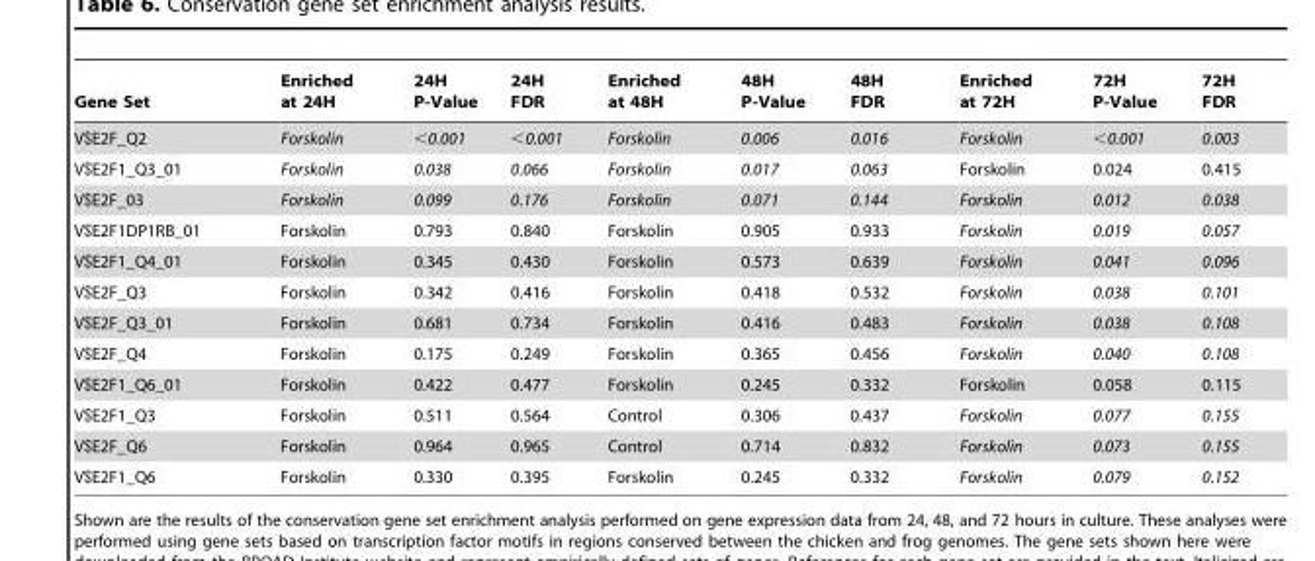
<table><thead><tr><td>Gene Set</td><td>Enriched at 24H</td><td>24H P-Value</td><td>24H FDR</td><td>Enriched at 48H</td><td>48H P-Value</td><td>48H FDR</td><td>Enriched at 72H</td><td>72H P-Value</td><td>72H FDR</td></tr></thead><tbody><tr><td>V$E2F_Q2</td><td>Forskolin</td><td>&lt;0.001</td><td>&lt;0.001</td><td>Forskolin</td><td>0.006</td><td>0.016</td><td>Forskolin</td><td>&lt;0.001</td><td>0.003</td></tr><tr><td>V$E2F1_Q3_01</td><td>Forskolin</td><td>0.038</td><td>0.066</td><td>Forskolin</td><td>0.017</td><td>0.063</td><td>Forskolin</td><td>0.024</td><td>0.415</td></tr><tr><td>V$E2F_03</td><td>Forskolin</td><td>0.099</td><td>0.176</td><td>Forskolin</td><td>0.071</td><td>0.144</td><td>Forskolin</td><td>0.012</td><td>0.038</td></tr><tr><td>V$E2F1DP1RB_01</td><td>Forskolin</td><td>0.793</td><td>0.840</td><td>Forskolin</td><td>0.905</td><td>0.933</td><td>Forskolin</td><td>0.019</td><td>0.057</td></tr><tr><td>V$E2F1_Q4_01</td><td>Forskolin</td><td>0.345</td><td>0.430</td><td>Forskolin</td><td>0.573</td><td>0.639</td><td>Forskolin</td><td>0.041</td><td>0.096</td></tr><tr><td>V$E2F_Q3</td><td>Forskolin</td><td>0.342</td><td>0.416</td><td>Forskolin</td><td>0.418</td><td>0.532</td><td>Forskolin</td><td>0.038</td><td>0.101</td></tr><tr><td>V$E2F_Q3_01</td><td>Forskolin</td><td>0.681</td><td>0.734</td><td>Forskolin</td><td>0.416</td><td>0.483</td><td>Forskolin</td><td>0.038</td><td>0.108</td></tr><tr><td>V$E2F_Q4</td><td>Forskolin</td><td>0.175</td><td>0.249</td><td>Forskolin</td><td>0.365</td><td>0.456</td><td>Forskolin</td><td>0.040</td><td>0.108</td></tr><tr><td>V$E2F1_Q6_01</td><td>Forskolin</td><td>0.422</td><td>0.477</td><td>Forskolin</td><td>0.245</td><td>0.332</td><td>Forskolin</td><td>0.058</td><td>0.115</td></tr><tr><td>V$E2F1_Q3</td><td>Forskolin</td><td>0.511</td><td>0.564</td><td>Control</td><td>0.306</td><td>0.437</td><td>Forskolin</td><td>0.077</td><td>0.155</td></tr><tr><td>V$E2F_Q6</td><td>Forskolin</td><td>0.964</td><td>0.965</td><td>Control</td><td>0.714</td><td>0.832</td><td>Forskolin</td><td>0.073</td><td>0.155</td></tr><tr><td>V$E2F1_Q6</td><td>Forskolin</td><td>0.330</td><td>0.395</td><td>Forskolin</td><td>0.245</td><td>0.332</td><td>Forskolin</td><td>0.079</td><td>0.152</td></tr></tbody></table>